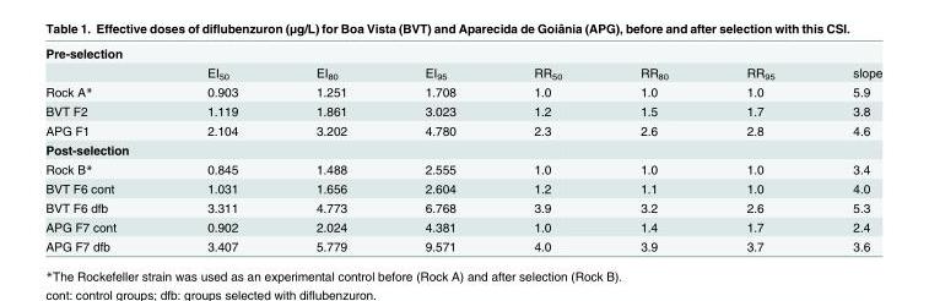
<table><tbody><tr><td colspan="8">Pre-selection</td></tr><tr><td></td><td>EI<sub>50</sub></td><td>EI<sub>80</sub></td><td>EI<sub>95</sub></td><td>RR<sub>50</sub></td><td>RR<sub>80</sub></td><td>RR<sub>95</sub></td><td>slope</td></tr><tr><td>Rock A*</td><td>0.903</td><td>1.251</td><td>1.708</td><td>1.0</td><td>1.0</td><td>1.0</td><td>5.9</td></tr><tr><td>BVT F2</td><td>1.119</td><td>1.861</td><td>3.023</td><td>1.2</td><td>1.5</td><td>1.7</td><td>3.8</td></tr><tr><td>APG F1</td><td>2.104</td><td>3.202</td><td>4.780</td><td>2.3</td><td>2.6</td><td>2.8</td><td>4.6</td></tr><tr><td colspan="8">Post-selection</td></tr><tr><td>Rock B*</td><td>0.845</td><td>1.488</td><td>2.555</td><td>1.0</td><td>1.0</td><td>1.0</td><td>3.4</td></tr><tr><td>BVT F6 cont</td><td>1.031</td><td>1.656</td><td>2.604</td><td>1.2</td><td>1.1</td><td>1.0</td><td>4.0</td></tr><tr><td>BVT F6 dfb</td><td>3.311</td><td>4.773</td><td>6.768</td><td>3.9</td><td>3.2</td><td>2.6</td><td>5.3</td></tr><tr><td>APG F7 cont</td><td>0.902</td><td>2.024</td><td>4.381</td><td>1.0</td><td>1.4</td><td>1.7</td><td>2.4</td></tr><tr><td>APG F7 dfb</td><td>3.407</td><td>5.779</td><td>9.571</td><td>4.0</td><td>3.9</td><td>3.7</td><td>3.6</td></tr></tbody></table>